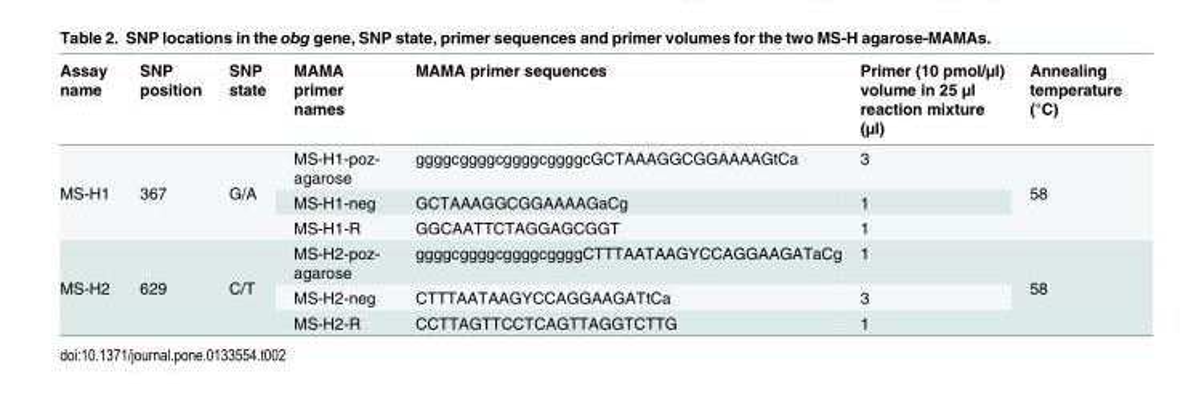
<table><thead><tr><td>Assay name</td><td>SNP position</td><td>SNP state</td><td>MAMA primer names</td><td>MAMA primer sequences</td><td>Primer (10 pmol/µl) volume in 25 µl reaction mixture (µl)</td><td>Annealing temperature (°C)</td></tr></thead><tbody><tr><td rowspan="3">MS-H1</td><td rowspan="3">367</td><td rowspan="3">G/A</td><td>MS-H1-poz- agarose</td><td>ggggcggggcggggcggggcGCTAAAGGCGGAAAAGtCa</td><td>3</td><td rowspan="3">58</td></tr><tr><td>MS-H1-neg</td><td>GCTAAAGGCGGAAAAGaCg</td><td>1</td></tr><tr><td>MS-H1-R</td><td>GGCAATTCTAGGAGCGGT</td><td>1</td></tr><tr><td rowspan="3">MS-H2</td><td rowspan="3">629</td><td rowspan="3">C/T</td><td>MS-H2-poz- agarose</td><td>ggggcggggcggggcggggCTTTAATAAGYCCAGGAAGATaCg</td><td>1</td><td rowspan="3">58</td></tr><tr><td>MS-H2-neg</td><td>CTTTAATAAGYCCAGGAAGATtCa</td><td>3</td></tr><tr><td>MS-H2-R</td><td>CCTTAGTTCCTCAGTTAGGTCTTG</td><td>1</td></tr></tbody></table>